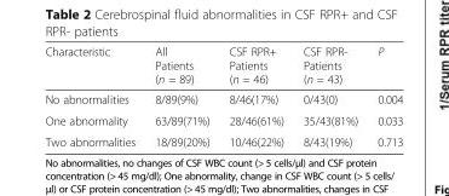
<table><thead><tr><td>Characteristic</td><td>All Patients (n = 89)</td><td>CSF RPR+ Patients (n = 46)</td><td>CSF RPR- Patients (n = 43)</td><td>P</td></tr></thead><tbody><tr><td>No abnormalities</td><td>8/89(9%)</td><td>8/46(17%)</td><td>0/43(0)</td><td>0.004</td></tr><tr><td>One abnormality</td><td>63/89(71%)</td><td>28/46(61%)</td><td>35/43(81%)</td><td>0.033</td></tr><tr><td>Two abnormalities</td><td>18/89(20%)</td><td>10/46(22%)</td><td>8/43(19%)</td><td>0.713</td></tr></tbody></table>